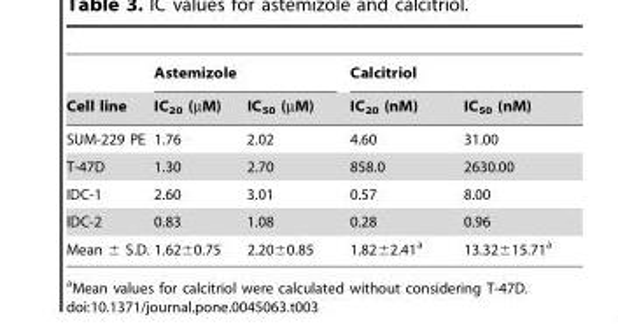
<table><thead><tr><td rowspan="2">Cell line</td><td colspan="2">Astemizole</td><td colspan="2">Calcitriol</td></tr><tr><td>IC<sub>20</sub> (µM)</td><td>IC<sub>50</sub> (µM)</td><td>IC<sub>20</sub> (nM)</td><td>IC<sub>50</sub> (nM)</td></tr></thead><tbody><tr><td>SUM-229 PE</td><td>1.76</td><td>2.02</td><td>4.60</td><td>31.00</td></tr><tr><td>T-47D</td><td>1.30</td><td>2.70</td><td>858.0</td><td>2630.00</td></tr><tr><td>IDC-1</td><td>2.60</td><td>3.01</td><td>0.57</td><td>8.00</td></tr><tr><td>IDC-2</td><td>0.83</td><td>1.08</td><td>0.28</td><td>0.96</td></tr><tr><td>Mean ± S.D.</td><td>1.62±0.75</td><td>2.20±0.85</td><td>1.82±2.41<sup>a</sup></td><td>13.32±15.71<sup>a</sup></td></tr></tbody></table>